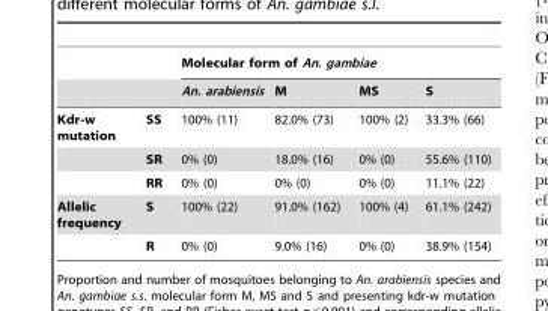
<table><thead><tr><td rowspan="2"></td><td rowspan="2"></td><td colspan="4">Molecular form of An. gambiae</td></tr><tr><td>An. arabiensis</td><td>M</td><td>MS</td><td>S</td></tr></thead><tbody><tr><td rowspan="3">Kdr-w mutation</td><td>SS</td><td>100% (11)</td><td>82.0% (73)</td><td>100% (2)</td><td>33.3% (66)</td></tr><tr><td>SR</td><td>0% (0)</td><td>18.0% (16)</td><td>0% (0)</td><td>55.6% (110)</td></tr><tr><td>RR</td><td>0% (0)</td><td>0% (0)</td><td>0% (0)</td><td>11.1% (22)</td></tr><tr><td rowspan="2">Allelic frequency</td><td>S</td><td>100% (22)</td><td>91.0% (162)</td><td>100% (4)</td><td>61.1% (242)</td></tr><tr><td>R</td><td>0% (0)</td><td>9.0% (16)</td><td>0% (0)</td><td>38.9% (154)</td></tr></tbody></table>